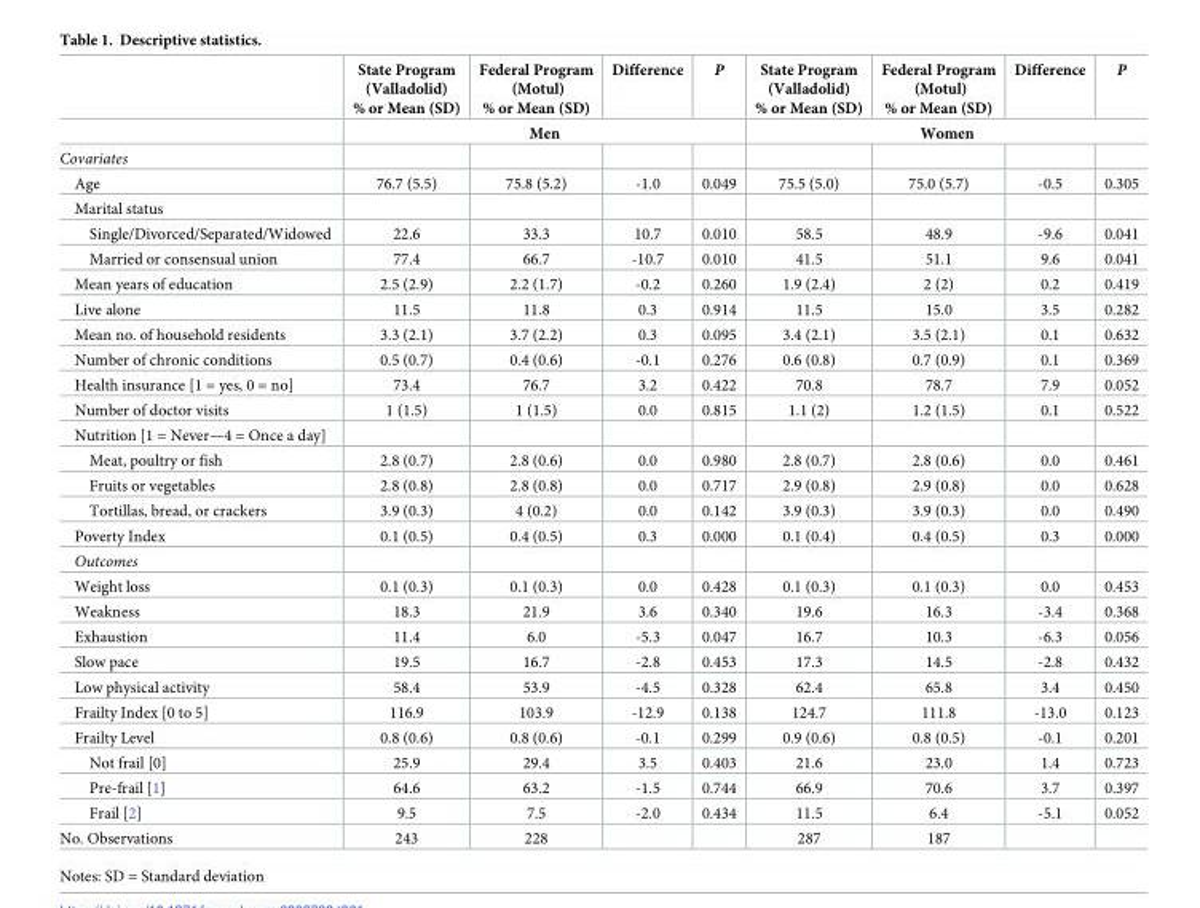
<table><thead><tr><td rowspan="2"></td><td>State Program (Valladolid) % or Mean (SD)</td><td>Federal Program (Motul) % or Mean (SD)</td><td>Difference</td><td>P</td><td>State Program (Valladolid) % or Mean (SD)</td><td>Federal Program (Motul) % or Mean (SD)</td><td>Difference</td><td>P</td></tr><tr><td colspan="4">Men</td><td colspan="4">Women</td></tr></thead><tbody><tr><td colspan="9">Covariates</td></tr><tr><td>Age</td><td>76.7 (5.5)</td><td>75.8 (5.2)</td><td>-1.0</td><td>0.049</td><td>75.5 (5.0)</td><td>75.0 (5.7)</td><td>-0.5</td><td>0.305</td></tr><tr><td colspan="9">Marital status</td></tr><tr><td>Single/Divorced/Separated/Widowed</td><td>22.6</td><td>33.3</td><td>10.7</td><td>0.010</td><td>58.5</td><td>48.9</td><td>-9.6</td><td>0.041</td></tr><tr><td>Married or consensual union</td><td>77.4</td><td>66.7</td><td>-10.7</td><td>0.010</td><td>41.5</td><td>51.1</td><td>9.6</td><td>0.041</td></tr><tr><td>Mean years of education</td><td>2.5 (2.9)</td><td>2.2 (1.7)</td><td>-0.2</td><td>0.260</td><td>1.9 (2.4)</td><td>2 (2)</td><td>0.2</td><td>0.419</td></tr><tr><td>Live alone</td><td>11.5</td><td>11.8</td><td>0.3</td><td>0.914</td><td>11.5</td><td>15.0</td><td>3.5</td><td>0.282</td></tr><tr><td>Mean no. of household residents</td><td>3.3 (2.1)</td><td>3.7 (2.2)</td><td>0.3</td><td>0.095</td><td>3.4 (2.1)</td><td>3.5 (2.1)</td><td>0.1</td><td>0.632</td></tr><tr><td>Number of chronic conditions</td><td>0.5 (0.7)</td><td>0.4 (0.6)</td><td>-0.1</td><td>0.276</td><td>0.6 (0.8)</td><td>0.7 (0.9)</td><td>0.1</td><td>0.369</td></tr><tr><td>Health insurance [1 = yes, 0 = no]</td><td>73.4</td><td>76.7</td><td>3.2</td><td>0.422</td><td>70.8</td><td>78.7</td><td>7.9</td><td>0.052</td></tr><tr><td>Number of doctor visits</td><td>1 (1.5)</td><td>1 (1.5)</td><td>0.0</td><td>0.815</td><td>1.1 (2)</td><td>1.2 (1.5)</td><td>0.1</td><td>0.522</td></tr><tr><td colspan="9">Nutrition [1 = Never—4 = Once a day]</td></tr><tr><td>Meat, poultry or fish</td><td>2.8 (0.7)</td><td>2.8 (0.6)</td><td>0.0</td><td>0.980</td><td>2.8 (0.7)</td><td>2.8 (0.6)</td><td>0.0</td><td>0.461</td></tr><tr><td>Fruits or vegetables</td><td>2.8 (0.8)</td><td>2.8 (0.8)</td><td>0.0</td><td>0.717</td><td>2.9 (0.8)</td><td>2.9 (0.8)</td><td>0.0</td><td>0.628</td></tr><tr><td>Tortillas, bread, or crackers</td><td>3.9 (0.3)</td><td>4 (0.2)</td><td>0.0</td><td>0.142</td><td>3.9 (0.3)</td><td>3.9 (0.3)</td><td>0.0</td><td>0.490</td></tr><tr><td>Poverty Index</td><td>0.1 (0.5)</td><td>0.4 (0.5)</td><td>0.3</td><td>0.000</td><td>0.1 (0.4)</td><td>0.4 (0.5)</td><td>0.3</td><td>0.000</td></tr><tr><td colspan="9">Outcomes</td></tr><tr><td>Weight loss</td><td>0.1 (0.3)</td><td>0.1 (0.3)</td><td>0.0</td><td>0.428</td><td>0.1 (0.3)</td><td>0.1 (0.3)</td><td>0.0</td><td>0.453</td></tr><tr><td>Weakness</td><td>18.3</td><td>21.9</td><td>3.6</td><td>0.340</td><td>19.6</td><td>16.3</td><td>-3.4</td><td>0.368</td></tr><tr><td>Exhaustion</td><td>11.4</td><td>6.0</td><td>-5.3</td><td>0.047</td><td>16.7</td><td>10.3</td><td>-6.3</td><td>0.056</td></tr><tr><td>Slow pace</td><td>19.5</td><td>16.7</td><td>-2.8</td><td>0.453</td><td>17.3</td><td>14.5</td><td>-2.8</td><td>0.432</td></tr><tr><td>Low physical activity</td><td>58.4</td><td>53.9</td><td>-4.5</td><td>0.328</td><td>62.4</td><td>65.8</td><td>3.4</td><td>0.450</td></tr><tr><td>Frailty Index [0 to 5]</td><td>116.9</td><td>103.9</td><td>-12.9</td><td>0.138</td><td>124.7</td><td>111.8</td><td>-13.0</td><td>0.123</td></tr><tr><td>Frailty Level</td><td>0.8 (0.6)</td><td>0.8 (0.6)</td><td>-0.1</td><td>0.299</td><td>0.9 (0.6)</td><td>0.8 (0.5)</td><td>-0.1</td><td>0.201</td></tr><tr><td>Not frail [0]</td><td>25.9</td><td>29.4</td><td>3.5</td><td>0.403</td><td>21.6</td><td>23.0</td><td>1.4</td><td>0.723</td></tr><tr><td>Pre-frail [1]</td><td>64.6</td><td>63.2</td><td>-1.5</td><td>0.744</td><td>66.9</td><td>70.6</td><td>3.7</td><td>0.397</td></tr><tr><td>Frail [2]</td><td>9.5</td><td>7.5</td><td>-2.0</td><td>0.434</td><td>11.5</td><td>6.4</td><td>-5.1</td><td>0.052</td></tr><tr><td>No. Observations</td><td>243</td><td>228</td><td></td><td></td><td>287</td><td>187</td><td></td><td></td></tr></tbody></table>